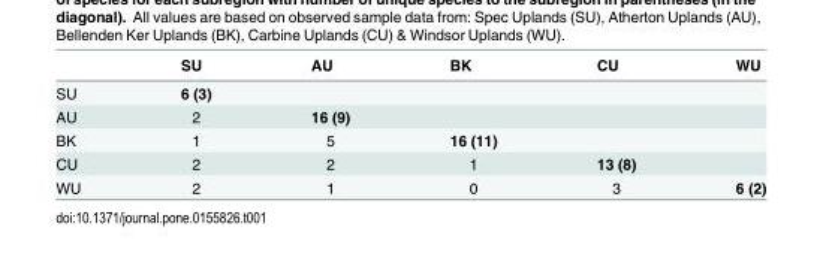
<table><thead><tr><td></td><td>SU</td><td>AU</td><td>BK</td><td>CU</td><td>WU</td></tr></thead><tbody><tr><td>SU</td><td>6 (3)</td><td></td><td></td><td></td><td></td></tr><tr><td>AU</td><td>2</td><td>16 (9)</td><td></td><td></td><td></td></tr><tr><td>BK</td><td>1</td><td>5</td><td>16 (11)</td><td></td><td></td></tr><tr><td>CU</td><td>2</td><td>2</td><td>1</td><td>13 (8)</td><td></td></tr><tr><td>WU</td><td>2</td><td>1</td><td>0</td><td>3</td><td>6 (2)</td></tr></tbody></table>